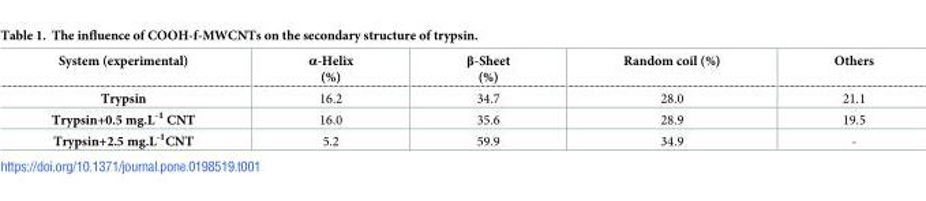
<table><thead><tr><td>System (experimental)</td><td>α-Helix (%)</td><td>β-Sheet (%)</td><td>Random coil (%)</td><td>Others</td></tr></thead><tbody><tr><td>Trypsin</td><td>16.2</td><td>34.7</td><td>28.0</td><td>21.1</td></tr><tr><td>Trypsin+0.5 mg.L<sup>-1</sup> CNT</td><td>16.0</td><td>35.6</td><td>28.9</td><td>19.5</td></tr><tr><td>Trypsin+2.5 mg.L<sup>-1</sup>CNT</td><td>5.2</td><td>59.9</td><td>34.9</td><td>-</td></tr></tbody></table>